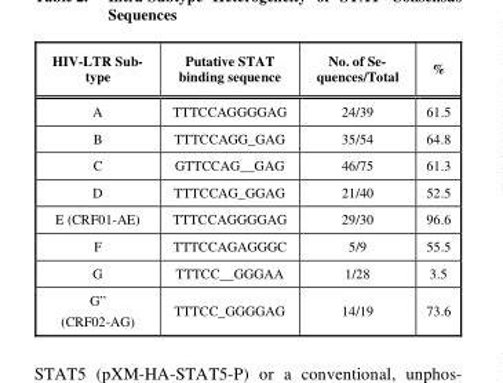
<table><thead><tr><td>HIV-LTR Sub- type</td><td>Putative STAT binding sequence</td><td>No. of Se- quences/Total</td><td>%</td></tr></thead><tbody><tr><td>A</td><td>TTTCCAGGGGAG</td><td>24/39</td><td>61.5</td></tr><tr><td>B</td><td>TTTCCAGG_GAG</td><td>35/54</td><td>64.8</td></tr><tr><td>C</td><td>GTTCCAG__GAG</td><td>46/75</td><td>61.3</td></tr><tr><td>D</td><td>TTTCCAG_GGAG</td><td>21/40</td><td>52.5</td></tr><tr><td>E (CRF01-AE)</td><td>TTTCCAGGGGAG</td><td>29/30</td><td>96.6</td></tr><tr><td>F</td><td>TTTCCAGAGGGC</td><td>5/9</td><td>55.5</td></tr><tr><td>G</td><td>TTTCC__GGGAA</td><td>1/28</td><td>3.5</td></tr><tr><td>G” (CRF02-AG)</td><td>TTTCC_GGGGAG</td><td>14/19</td><td>73.6</td></tr></tbody></table>